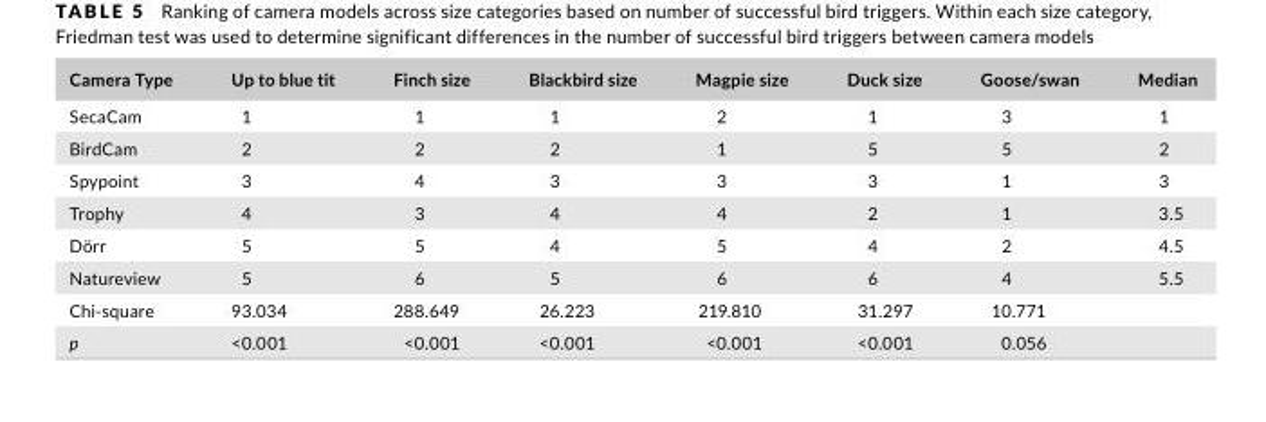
<table><thead><tr><td>Camera Type</td><td>Up to blue tit</td><td>Finch size</td><td>Blackbird size</td><td>Magpie size</td><td>Duck size</td><td>Goose/swan</td><td>Median</td></tr></thead><tbody><tr><td>SecaCam</td><td>1</td><td>1</td><td>1</td><td>2</td><td>1</td><td>3</td><td>1</td></tr><tr><td>BirdCam</td><td>2</td><td>2</td><td>2</td><td>1</td><td>5</td><td>5</td><td>2</td></tr><tr><td>Spypoint</td><td>3</td><td>4</td><td>3</td><td>3</td><td>3</td><td>1</td><td>3</td></tr><tr><td>Trophy</td><td>4</td><td>3</td><td>4</td><td>4</td><td>2</td><td>1</td><td>3.5</td></tr><tr><td>Dörr</td><td>5</td><td>5</td><td>4</td><td>5</td><td>4</td><td>2</td><td>4.5</td></tr><tr><td>Natureview</td><td>5</td><td>6</td><td>5</td><td>6</td><td>6</td><td>4</td><td>5.5</td></tr><tr><td>Chi- square</td><td>93.034</td><td>288.649</td><td>26.223</td><td>219.810</td><td>31.297</td><td>10.771</td><td></td></tr><tr><td>p</td><td>&lt;0.001</td><td>&lt;0.001</td><td>&lt;0.001</td><td>&lt;0.001</td><td>&lt;0.001</td><td>0.056</td><td></td></tr></tbody></table>